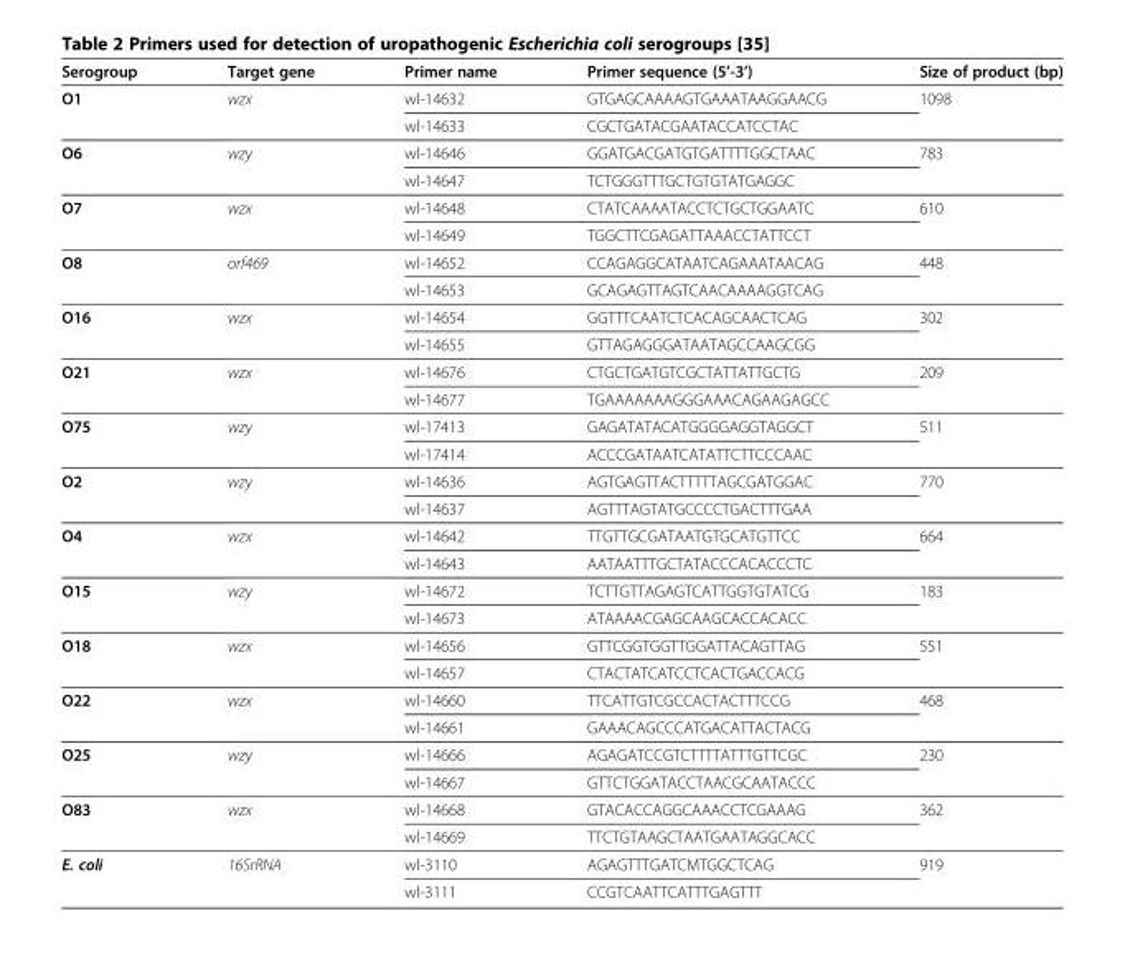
<table><thead><tr><td>Serogroup</td><td>Target gene</td><td>Primer name</td><td>Primer sequence (5’-3’)</td><td>Size of product (bp)</td></tr></thead><tbody><tr><td rowspan="2">O1</td><td>wzx</td><td>wl-14632</td><td>GTGAGCAAAAGTGAAATAAGGAACG</td><td>1098</td></tr><tr><td></td><td>wl-14633</td><td>CGCTGATACGAATACCATCCTAC</td><td></td></tr><tr><td rowspan="2">O6</td><td>wzy</td><td>wl-14646</td><td>GGATGACGATGTGATTTTGGCTAAC</td><td>783</td></tr><tr><td></td><td>wl-14647</td><td>TCTGGGTTTGCTGTGTATGAGGC</td><td></td></tr><tr><td rowspan="2">O7</td><td>wzx</td><td>wl-14648</td><td>CTATCAAAATACCTCTGCTGGAATC</td><td>610</td></tr><tr><td></td><td>wl-14649</td><td>TGGCTTCGAGATTAAACCTATTCCT</td><td></td></tr><tr><td rowspan="2">O8</td><td>orf469</td><td>wl-14652</td><td>CCAGAGGCATAATCAGAAATAACAG</td><td>448</td></tr><tr><td></td><td>wl-14653</td><td>GCAGAGTTAGTCAACAAAAGGTCAG</td><td></td></tr><tr><td rowspan="2">O16</td><td>wzx</td><td>wl-14654</td><td>GGTTTCAATCTCACAGCAACTCAG</td><td>302</td></tr><tr><td></td><td>wl-14655</td><td>GTTAGAGGGATAATAGCCAAGCGG</td><td></td></tr><tr><td rowspan="2">O21</td><td>wzx</td><td>wl-14676</td><td>CTGCTGATGTCGCTATTATTGCTG</td><td>209</td></tr><tr><td></td><td>wl-14677</td><td>TGAAAAAAAGGGAAACAGAAGAGCC</td><td></td></tr><tr><td rowspan="2">O75</td><td>wzy</td><td>wl-17413</td><td>GAGATATACATGGGGAGGTAGGCT</td><td>511</td></tr><tr><td></td><td>wl-17414</td><td>ACCCGATAATCATATTCTTCCCAAC</td><td></td></tr><tr><td rowspan="2">O2</td><td>wzy</td><td>wl-14636</td><td>AGTGAGTTACTTTTTAGCGATGGAC</td><td>770</td></tr><tr><td></td><td>wl-14637</td><td>AGTTTAGTATGCCCCTGACTTTGAA</td><td></td></tr><tr><td rowspan="2">O4</td><td>wzx</td><td>wl-14642</td><td>TTGTTGCGATAATGTGCATGTTCC</td><td>664</td></tr><tr><td></td><td>wl-14643</td><td>AATAATTTGCTATACCCACACCCTC</td><td></td></tr><tr><td rowspan="2">O15</td><td>wzy</td><td>wl-14672</td><td>TCTTGTTAGAGTCATTGGTGTATCG</td><td>183</td></tr><tr><td></td><td>wl-14673</td><td>ATAAAACGAGCAAGCACCACACC</td><td></td></tr><tr><td rowspan="2">O18</td><td>wzx</td><td>wl-14656</td><td>GTTCGGTGGTTGGATTACAGTTAG</td><td>551</td></tr><tr><td></td><td>wl-14657</td><td>CTACTATCATCCTCACTGACCACG</td><td></td></tr><tr><td rowspan="2">O22</td><td>wzx</td><td>wl-14660</td><td>TTCATTGTCGCCACTACTTTCCG</td><td>468</td></tr><tr><td></td><td>wl-14661</td><td>GAAACAGCCCATGACATTACTACG</td><td></td></tr><tr><td rowspan="2">O25</td><td>wzy</td><td>wl-14666</td><td>AGAGATCCGTCTTTTATTTGTTCGC</td><td>230</td></tr><tr><td></td><td>wl-14667</td><td>GTTCTGGATACCTAACGCAATACCC</td><td></td></tr><tr><td rowspan="2">O83</td><td>wzx</td><td>wl-14668</td><td>GTACACCAGGCAAACCTCGAAAG</td><td>362</td></tr><tr><td></td><td>wl-14669</td><td>TTCTGTAAGCTAATGAATAGGCACC</td><td></td></tr><tr><td rowspan="2">E. coli</td><td>16SrRNA</td><td>wl-3110</td><td>AGAGTTTGATCMTGGCTCAG</td><td>919</td></tr><tr><td></td><td>wl-3111</td><td>CCGTCAATTCATTTGAGTTT</td><td></td></tr></tbody></table>